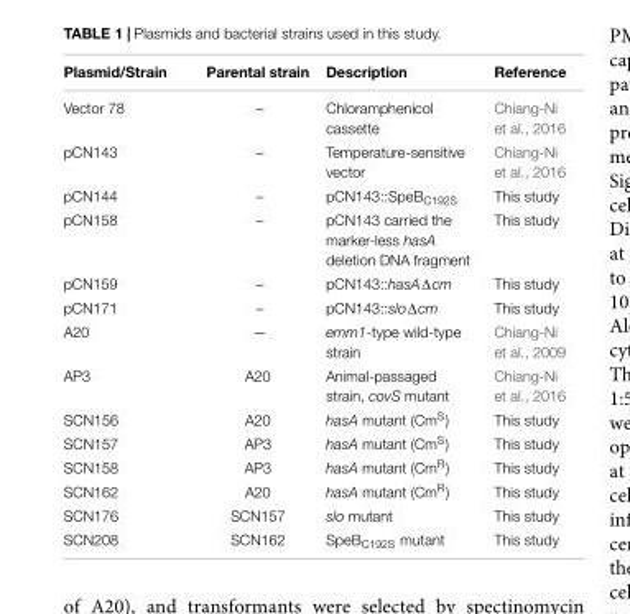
<table><thead><tr><td>Plasmid/Strain</td><td>Parental strain</td><td>Description</td><td>Reference</td></tr></thead><tbody><tr><td>Vector 78</td><td>–</td><td>Chloramphenicol cassette</td><td>Chiang-Ni et al., 2016</td></tr><tr><td>pCN143</td><td>–</td><td>Temperature-sensitive vector</td><td>Chiang-Ni et al., 2016</td></tr><tr><td>pCN144</td><td>–</td><td>pCN143::SpeB<sub>C192S</sub></td><td>This study</td></tr><tr><td>pCN158</td><td>–</td><td>pCN143 carried the marker-less hasA deletion DNA fragment</td><td>This study</td></tr><tr><td>pCN159</td><td>–</td><td>pCN143::hasAΔcm</td><td>This study</td></tr><tr><td>pCN171</td><td>–</td><td>pCN143::sloΔcm</td><td>This study</td></tr><tr><td>A20</td><td>—</td><td>emm1-type wild-type strain</td><td>Chiang-Ni et al., 2009</td></tr><tr><td>AP3</td><td>A20</td><td>Animal-passaged strain, covS mutant</td><td>Chiang-Ni et al., 2016</td></tr><tr><td>SCN156</td><td>A20</td><td>hasA mutant (Cm<sup>S</sup>)</td><td>This study</td></tr><tr><td>SCN157</td><td>AP3</td><td>hasA mutant (Cm<sup>S</sup>)</td><td>This study</td></tr><tr><td>SCN158</td><td>AP3</td><td>hasA mutant (Cm<sup>R</sup>)</td><td>This study</td></tr><tr><td>SCN162</td><td>A20</td><td>hasA mutant (Cm<sup>R</sup>)</td><td>This study</td></tr><tr><td>SCN176</td><td>SCN157</td><td>slo mutant</td><td>This study</td></tr><tr><td>SCN208</td><td>SCN162</td><td>SpeB<sub>C192S</sub> mutant</td><td>This study</td></tr></tbody></table>